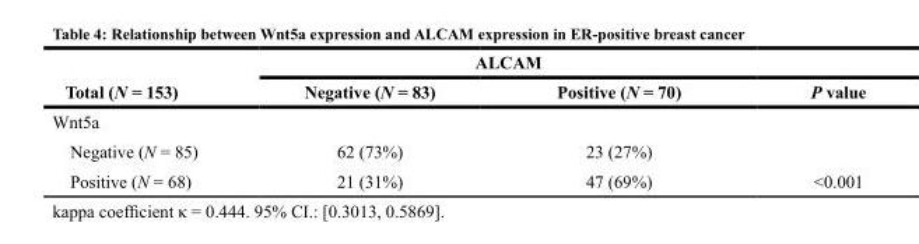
<table><thead><tr><td rowspan="2">Total (N = 153)</td><td colspan="2">ALCAM</td><td rowspan="2">P value</td></tr><tr><td>Negative (N = 83)</td><td>Positive (N = 70)</td></tr></thead><tbody><tr><td colspan="4">Wnt5a</td></tr><tr><td>Negative (N = 85)</td><td>62 (73%)</td><td>23 (27%)</td><td></td></tr><tr><td>Positive (N = 68)</td><td>21 (31%)</td><td>47 (69%)</td><td>&lt;0.001</td></tr></tbody></table>